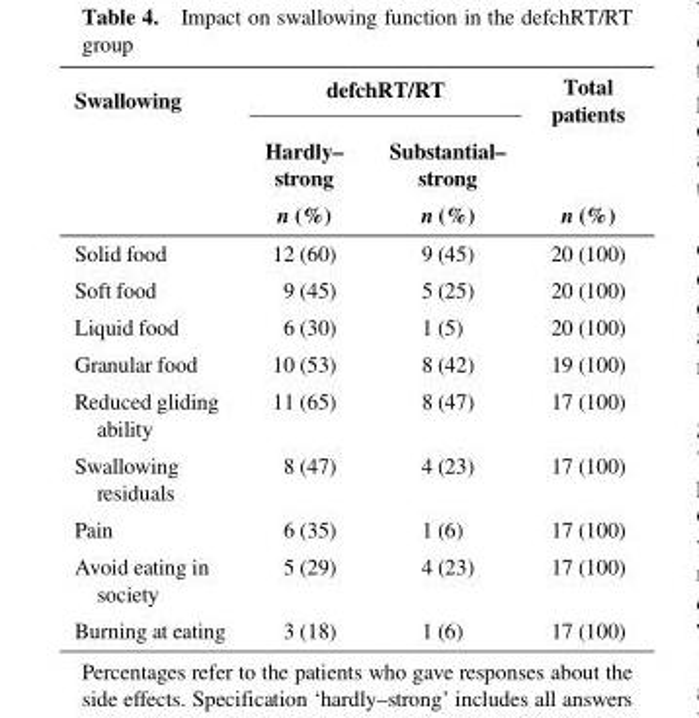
<table><thead><tr><td rowspan="3">Swallowing</td><td colspan="2">defchRT/RT</td><td rowspan="3">Total patients n (%)</td></tr><tr><td rowspan="2">Hardly– strong n (%)</td><td rowspan="2">Substantial– strong n (%)</td></tr><tr></tr></thead><tbody><tr><td>Solid food</td><td>12 (60)</td><td>9 (45)</td><td>20 (100)</td></tr><tr><td>Soft food</td><td>9 (45)</td><td>5 (25)</td><td>20 (100)</td></tr><tr><td>Liquid food</td><td>6 (30)</td><td>1 (5)</td><td>20 (100)</td></tr><tr><td>Granular food</td><td>10 (53)</td><td>8 (42)</td><td>19 (100)</td></tr><tr><td>Reduced gliding ability</td><td>11 (65)</td><td>8 (47)</td><td>17 (100)</td></tr><tr><td>Swallowing residuals</td><td>8 (47)</td><td>4 (23)</td><td>17 (100)</td></tr><tr><td>Pain</td><td>6 (35)</td><td>1 (6)</td><td>17 (100)</td></tr><tr><td>Avoid eating in society</td><td>5 (29)</td><td>4 (23)</td><td>17 (100)</td></tr><tr><td>Burning at eating</td><td>3 (18)</td><td>1 (6)</td><td>17 (100)</td></tr></tbody></table>